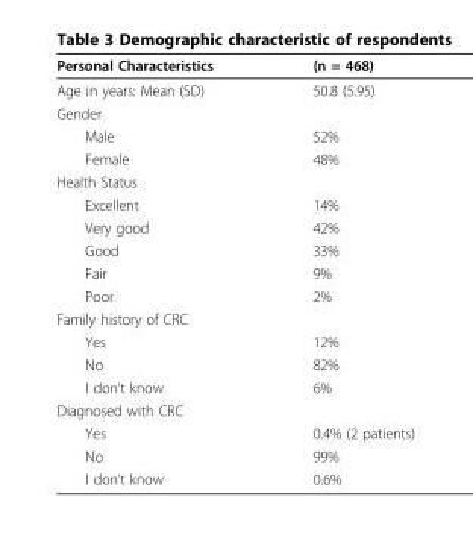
<table><thead><tr><td>Personal Characteristics</td><td>(n = 468)</td></tr></thead><tbody><tr><td>Age in years: Mean (SD)</td><td>50.8 (5.95)</td></tr><tr><td colspan="2">Gender</td></tr><tr><td>Male</td><td>52%</td></tr><tr><td>Female</td><td>48%</td></tr><tr><td colspan="2">Health Status</td></tr><tr><td>Excellent</td><td>14%</td></tr><tr><td>Very good</td><td>42%</td></tr><tr><td>Good</td><td>33%</td></tr><tr><td>Fair</td><td>9%</td></tr><tr><td>Poor</td><td>2%</td></tr><tr><td colspan="2">Family history of CRC</td></tr><tr><td>Yes</td><td>12%</td></tr><tr><td>No</td><td>82%</td></tr><tr><td>I don’t know</td><td>6%</td></tr><tr><td colspan="2">Diagnosed with CRC</td></tr><tr><td>Yes</td><td>0.4% (2 patients)</td></tr><tr><td>No</td><td>99%</td></tr><tr><td>I don’t know</td><td>0.6%</td></tr></tbody></table>